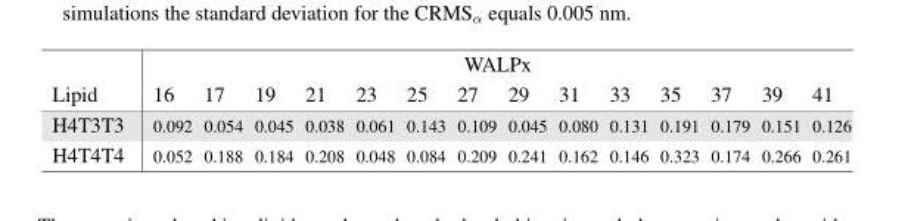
<table><thead><tr><td rowspan="2">Lipid</td><td colspan="14">WALPx</td></tr><tr><td>16</td><td>17</td><td>19</td><td>21</td><td>23</td><td>25</td><td>27</td><td>29</td><td>31</td><td>33</td><td>35</td><td>37</td><td>39</td><td>41</td></tr></thead><tbody><tr><td>H4T3T3</td><td>0.092</td><td>0.054</td><td>0.045</td><td>0.038</td><td>0.061</td><td>0.143</td><td>0.109</td><td>0.045</td><td>0.080</td><td>0.131</td><td>0.191</td><td>0.179</td><td>0.151</td><td>0.126</td></tr><tr><td>H4T4T4</td><td>0.052</td><td>0.188</td><td>0.184</td><td>0.208</td><td>0.048</td><td>0.084</td><td>0.209</td><td>0.241</td><td>0.162</td><td>0.146</td><td>0.323</td><td>0.174</td><td>0.266</td><td>0.261</td></tr></tbody></table>